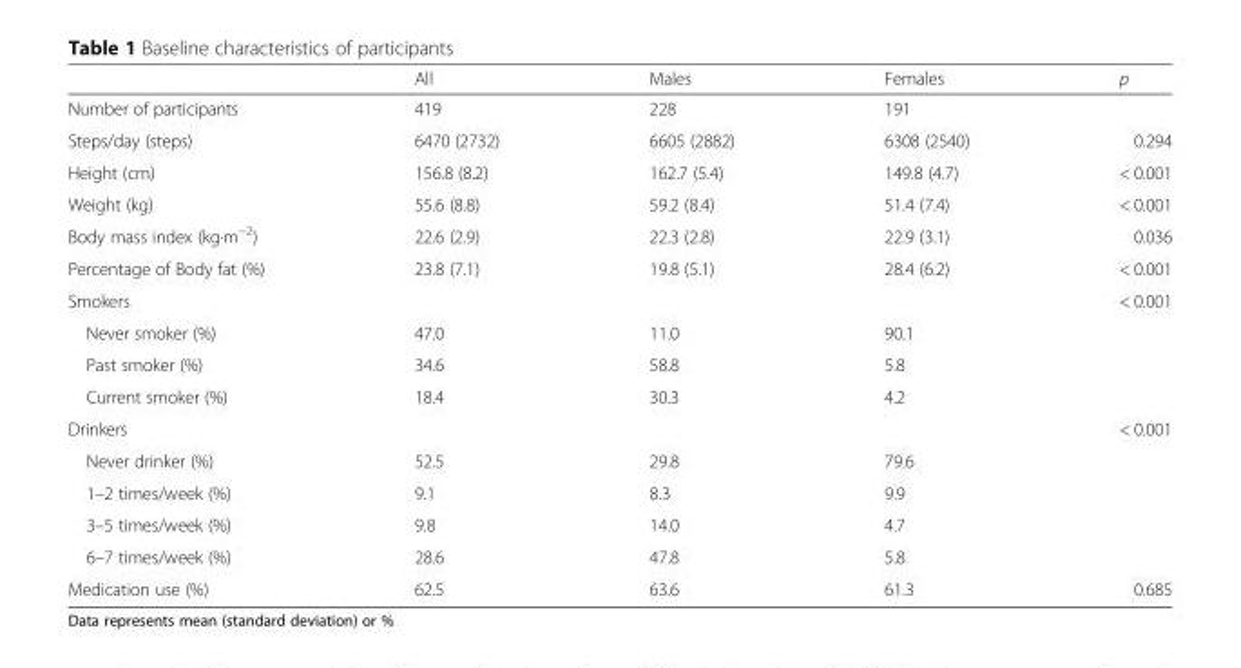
<table><thead><tr><td></td><td>All</td><td>Males</td><td>Females</td><td>p</td></tr></thead><tbody><tr><td>Number of participants</td><td>419</td><td>228</td><td>191</td><td></td></tr><tr><td>Steps/day (steps)</td><td>6470 (2732)</td><td>6605 (2882)</td><td>6308 (2540)</td><td>0.294</td></tr><tr><td>Height (cm)</td><td>156.8 (8.2)</td><td>162.7 (5.4)</td><td>149.8 (4.7)</td><td>&lt; 0.001</td></tr><tr><td>Weight (kg)</td><td>55.6 (8.8)</td><td>59.2 (8.4)</td><td>51.4 (7.4)</td><td>&lt; 0.001</td></tr><tr><td>Body mass index (kg·m<sup>−2</sup>)</td><td>22.6 (2.9)</td><td>22.3 (2.8)</td><td>22.9 (3.1)</td><td>0.036</td></tr><tr><td>Percentage of Body fat (%)</td><td>23.8 (7.1)</td><td>19.8 (5.1)</td><td>28.4 (6.2)</td><td>&lt; 0.001</td></tr><tr><td>Smokers</td><td></td><td></td><td></td><td>&lt; 0.001</td></tr><tr><td>Never smoker (%)</td><td>47.0</td><td>11.0</td><td>90.1</td><td></td></tr><tr><td>Past smoker (%)</td><td>34.6</td><td>58.8</td><td>5.8</td><td></td></tr><tr><td>Current smoker (%)</td><td>18.4</td><td>30.3</td><td>4.2</td><td></td></tr><tr><td>Drinkers</td><td></td><td></td><td></td><td>&lt; 0.001</td></tr><tr><td>Never drinker (%)</td><td>52.5</td><td>29.8</td><td>79.6</td><td></td></tr><tr><td>1–2 times/week (%)</td><td>9.1</td><td>8.3</td><td>9.9</td><td></td></tr><tr><td>3–5 times/week (%)</td><td>9.8</td><td>14.0</td><td>4.7</td><td></td></tr><tr><td>6–7 times/week (%)</td><td>28.6</td><td>47.8</td><td>5.8</td><td></td></tr><tr><td>Medication use (%)</td><td>62.5</td><td>63.6</td><td>61.3</td><td>0.685</td></tr></tbody></table>